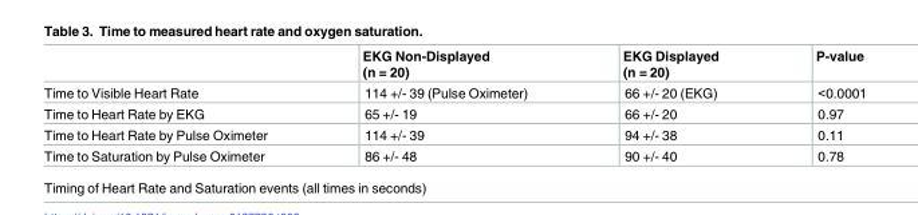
<table><thead><tr><td></td><td>EKG Non-Displayed (n = 20)</td><td>EKG Displayed (n = 20)</td><td>P-value</td></tr></thead><tbody><tr><td>Time to Visible Heart Rate</td><td>114 +/- 39 (Pulse Oximeter)</td><td>66 +/- 20 (EKG)</td><td>&lt;0.0001</td></tr><tr><td>Time to Heart Rate by EKG</td><td>65 +/- 19</td><td>66 +/- 20</td><td>0.97</td></tr><tr><td>Time to Heart Rate by Pulse Oximeter</td><td>114 +/- 39</td><td>94 +/- 38</td><td>0.11</td></tr><tr><td>Time to Saturation by Pulse Oximeter</td><td>86 +/- 48</td><td>90 +/- 40</td><td>0.78</td></tr></tbody></table>